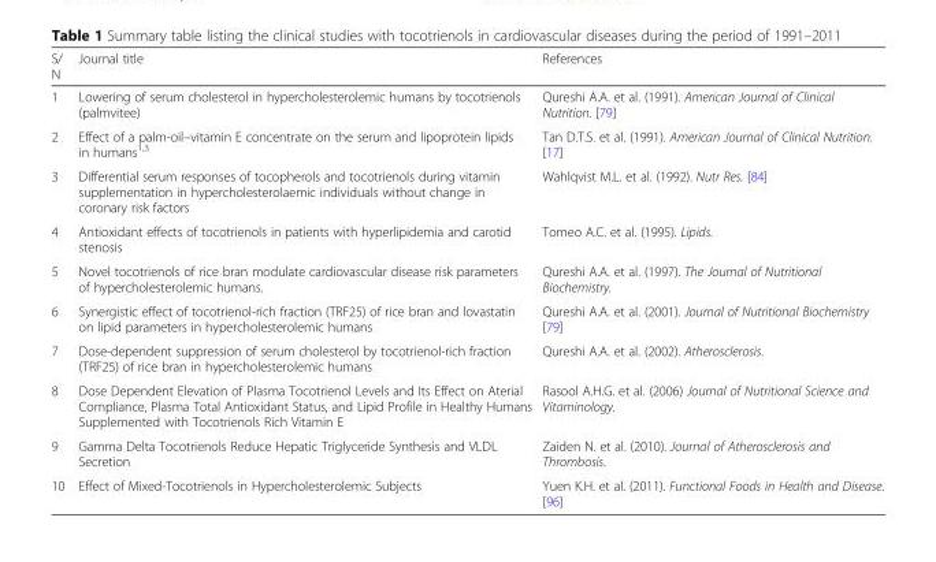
<table><thead><tr><td>S/ N</td><td>Journal title</td><td>References</td></tr></thead><tbody><tr><td>1</td><td>Lowering of serum cholesterol in hypercholesterolemic humans by tocotrienols (palmvitee)</td><td>Qureshi A.A. et al. (1991). American Journal of Clinical Nutrition. [79]</td></tr><tr><td>2</td><td>Effect of a palm-oil–vitamin E concentrate on the serum and lipoprotein lipids in humans1,3</td><td>Tan D.T.S. et al. (1991). American Journal of Clinical Nutrition. [17]</td></tr><tr><td>3</td><td>Differential serum responses of tocopherols and tocotrienols during vitamin supplementation in hypercholesterolaemic individuals without change in coronary risk factors</td><td>Wahlqvist M.L. et al. (1992). Nutr Res. [84]</td></tr><tr><td>4</td><td>Antioxidant effects of tocotrienols in patients with hyperlipidemia and carotid stenosis</td><td>Tomeo A.C. et al. (1995). Lipids.</td></tr><tr><td>5</td><td>Novel tocotrienols of rice bran modulate cardiovascular disease risk parameters of hypercholesterolemic humans.</td><td>Qureshi A.A. et al. (1997). The Journal of Nutritional Biochemistry.</td></tr><tr><td>6</td><td>Synergistic effect of tocotrienol-rich fraction (TRF25) of rice bran and lovastatin on lipid parameters in hypercholesterolemic humans</td><td>Qureshi A.A. et al. (2001). Journal of Nutritional Biochemistry [79]</td></tr><tr><td>7</td><td>Dose-dependent suppression of serum cholesterol by tocotrienol-rich fraction (TRF25) of rice bran in hypercholesterolemic humans</td><td>Qureshi A.A. et al. (2002). Atherosclerosis.</td></tr><tr><td>8</td><td>Dose Dependent Elevation of Plasma Tocotrienol Levels and Its Effect on Aterial Compliance, Plasma Total Antioxidant Status, and Lipid Profile in Healthy Humans Supplemented with Tocotrienols Rich Vitamin E</td><td>Rasool A.H.G. et al. (2006) Journal of Nutritional Science and Vitaminology.</td></tr><tr><td>9</td><td>Gamma Delta Tocotrienols Reduce Hepatic Triglyceride Synthesis and VLDL Secretion</td><td>Zaiden N. et al. (2010). Journal of Atherosclerosis and Thrombosis.</td></tr><tr><td>10</td><td>Effect of Mixed-Tocotrienols in Hypercholesterolemic Subjects</td><td>Yuen K.H. et al. (2011). Functional Foods in Health and Disease. [96]</td></tr></tbody></table>